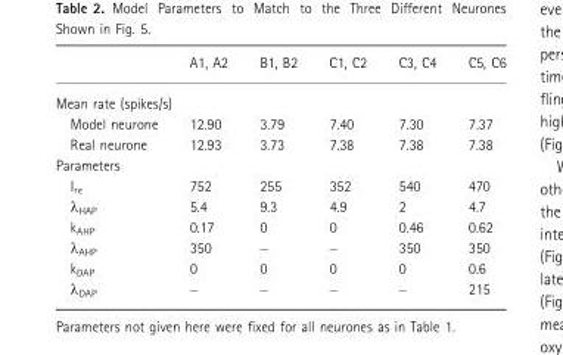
<table><thead><tr><td></td><td>A1, A2</td><td>B1, B2</td><td>C1, C2</td><td>C3, C4</td><td>C5, C6</td></tr></thead><tbody><tr><td colspan="6">Mean rate (spikes/s)</td></tr><tr><td>Model neurone</td><td>12.90</td><td>3.79</td><td>7.40</td><td>7.30</td><td>7.37</td></tr><tr><td>Real neurone</td><td>12.93</td><td>3.73</td><td>7.38</td><td>7.38</td><td>7.38</td></tr><tr><td colspan="6">Parameters</td></tr><tr><td>I<sub>re</sub></td><td>752</td><td>255</td><td>352</td><td>540</td><td>470</td></tr><tr><td>λ<sub>HAP</sub></td><td>5.4</td><td>9.3</td><td>4.9</td><td>2</td><td>4.7</td></tr><tr><td>k<sub>AHP</sub></td><td>0.17</td><td>0</td><td>0</td><td>0.46</td><td>0.62</td></tr><tr><td>λ<sub>AHP</sub></td><td>350</td><td>–</td><td>–</td><td>350</td><td>350</td></tr><tr><td>k<sub>DAP</sub></td><td>0</td><td>0</td><td>0</td><td>0</td><td>0.6</td></tr><tr><td>λ<sub>DAP</sub></td><td>–</td><td>–</td><td>–</td><td>–</td><td>215</td></tr></tbody></table>